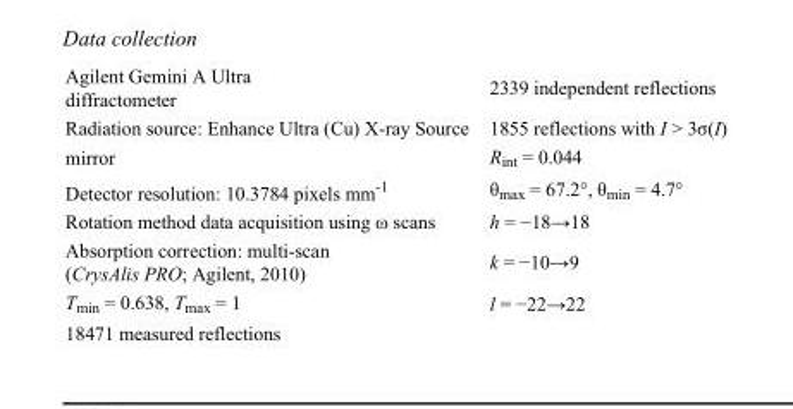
<table><tbody><tr><td>Agilent Gemini A Ultra diffractometer</td><td>2339 independent reflections</td></tr><tr><td>Radiation source: Enhance Ultra (Cu) X-ray Source</td><td>1855 reflections with I &gt; 3σ(I)</td></tr><tr><td>mirror</td><td>R<sub>int</sub> = 0.044</td></tr><tr><td>Detector resolution: 10.3784 pixels mm<sup>-1</sup></td><td>θ<sub>max</sub> = 67.2°, θ<sub>min</sub> = 4.7°</td></tr><tr><td>Rotation method data acquisition using ω scans</td><td>h = −18→18</td></tr><tr><td>Absorption correction: multi-scan (CrysAlis PRO; Agilent, 2010)</td><td>k = −10→9</td></tr><tr><td>T<sub>min</sub> = 0.638, T<sub>max</sub> = 1</td><td>l = −22→22</td></tr><tr><td>18471 measured reflections</td><td></td></tr></tbody></table>